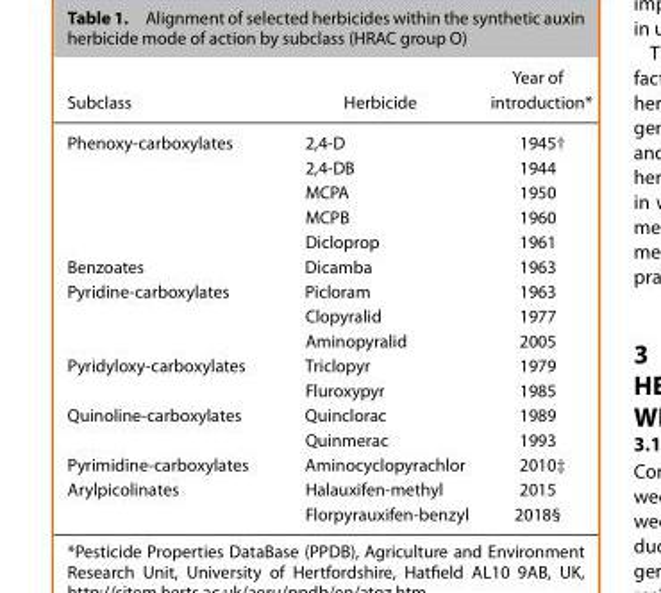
<table><thead><tr><td>Subclass</td><td>Herbicide</td><td>Year of introduction*</td></tr></thead><tbody><tr><td rowspan="5">Phenoxy-carboxylates</td><td>2,4-D</td><td>1945†</td></tr><tr><td>2,4-DB</td><td>1944</td></tr><tr><td>MCPA</td><td>1950</td></tr><tr><td>MCPB</td><td>1960</td></tr><tr><td>Dicloprop</td><td>1961</td></tr><tr><td>Benzoates</td><td>Dicamba</td><td>1963</td></tr><tr><td rowspan="3">Pyridine-carboxylates</td><td>Picloram</td><td>1963</td></tr><tr><td>Clopyralid</td><td>1977</td></tr><tr><td>Aminopyralid</td><td>2005</td></tr><tr><td rowspan="2">Pyridyloxy-carboxylates</td><td>Triclopyr</td><td>1979</td></tr><tr><td>Fluroxypyr</td><td>1985</td></tr><tr><td rowspan="2">Quinoline-carboxylates</td><td>Quinclorac</td><td>1989</td></tr><tr><td>Quinmerac</td><td>1993</td></tr><tr><td>Pyrimidine-carboxylates</td><td>Aminocyclopyrachlor</td><td>2010‡</td></tr><tr><td rowspan="2">Arylpicolinates</td><td>Halauxifen-methyl</td><td>2015</td></tr><tr><td>Florpyrauxifen-benzyl</td><td>2018§</td></tr></tbody></table>